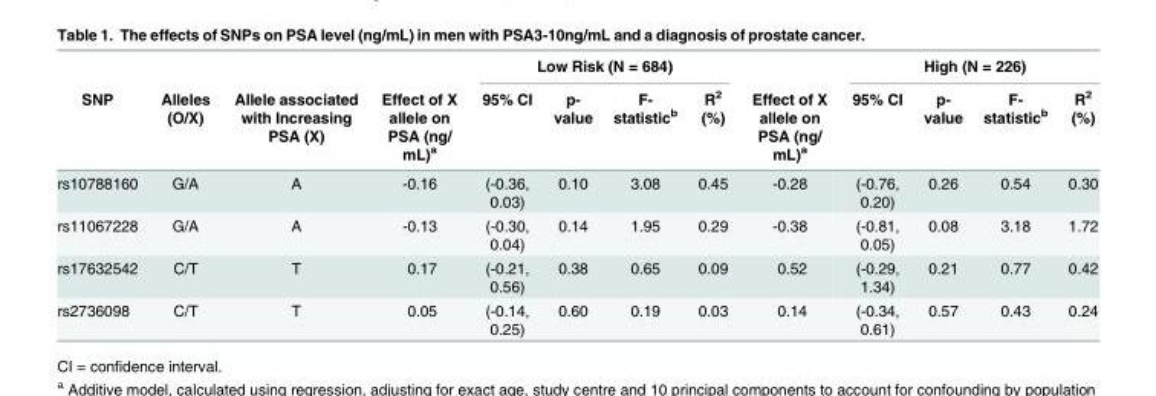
<table><thead><tr><td rowspan="2">SNP</td><td rowspan="2">Alleles (O/X)</td><td rowspan="2">Allele associated with Increasing PSA (X)</td><td rowspan="2">Effect of X allele on PSA (ng/ mL)<sup>a</sup></td><td colspan="4">Low Risk (N = 684)</td><td rowspan="2">Effect of X allele on PSA (ng/ mL)<sup>a</sup></td><td colspan="4">High (N = 226)</td></tr><tr><td>95% CI</td><td>p- value</td><td>F- statistic<sup>b</sup></td><td>R<sup>2</sup> (%)</td><td>95% CI</td><td>p- value</td><td>F- statistic<sup>b</sup></td><td>R<sup>2</sup> (%)</td></tr></thead><tbody><tr><td>rs10788160</td><td>G/A</td><td>A</td><td>-0.16</td><td>(-0.36, 0.03)</td><td>0.10</td><td>3.08</td><td>0.45</td><td>-0.28</td><td>(-0.76, 0.20)</td><td>0.26</td><td>0.54</td><td>0.30</td></tr><tr><td>rs11067228</td><td>G/A</td><td>A</td><td>-0.13</td><td>(-0.30, 0.04)</td><td>0.14</td><td>1.95</td><td>0.29</td><td>-0.38</td><td>(-0.81, 0.05)</td><td>0.08</td><td>3.18</td><td>1.72</td></tr><tr><td>rs17632542</td><td>C/T</td><td>T</td><td>0.17</td><td>(-0.21, 0.56)</td><td>0.38</td><td>0.65</td><td>0.09</td><td>0.52</td><td>(-0.29, 1.34)</td><td>0.21</td><td>0.77</td><td>0.42</td></tr><tr><td>rs2736098</td><td>C/T</td><td>T</td><td>0.05</td><td>(-0.14, 0.25)</td><td>0.60</td><td>0.19</td><td>0.03</td><td>0.14</td><td>(-0.34, 0.61)</td><td>0.57</td><td>0.43</td><td>0.24</td></tr></tbody></table>